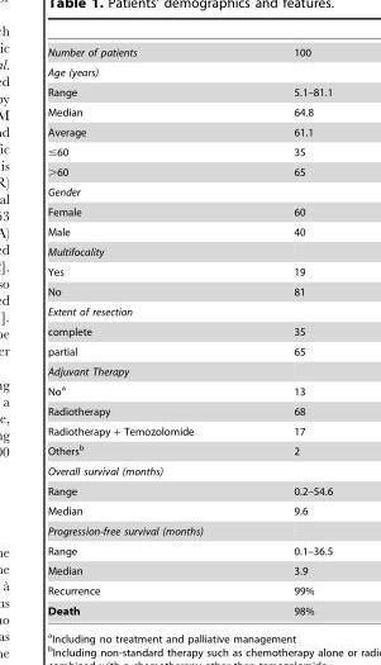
<table><tbody><tr><td>Number of patients</td><td>100</td></tr><tr><td colspan="2">Age (years)</td></tr><tr><td>Range</td><td>5.1–81.1</td></tr><tr><td>Median</td><td>64.8</td></tr><tr><td>Average</td><td>61.1</td></tr><tr><td>≤60</td><td>35</td></tr><tr><td>&gt;60</td><td>65</td></tr><tr><td colspan="2">Gender</td></tr><tr><td>Female</td><td>60</td></tr><tr><td>Male</td><td>40</td></tr><tr><td colspan="2">Multifocality</td></tr><tr><td>Yes</td><td>19</td></tr><tr><td>No</td><td>81</td></tr><tr><td colspan="2">Extent of resection</td></tr><tr><td>complete</td><td>35</td></tr><tr><td>partial</td><td>65</td></tr><tr><td colspan="2">Adjuvant Therapy</td></tr><tr><td>No<sup>a</sup></td><td>13</td></tr><tr><td>Radiotherapy</td><td>68</td></tr><tr><td>Radiotherapy + Temozolomide</td><td>17</td></tr><tr><td>Others<sup>b</sup></td><td>2</td></tr><tr><td colspan="2">Overall survival (months)</td></tr><tr><td>Range</td><td>0.2–54.6</td></tr><tr><td>Median</td><td>9.6</td></tr><tr><td colspan="2">Progression-free survival (months)</td></tr><tr><td>Range</td><td>0.1–36.5</td></tr><tr><td>Median</td><td>3.9</td></tr><tr><td>Recurrence</td><td>99%</td></tr><tr><td>Death</td><td>98%</td></tr></tbody></table>